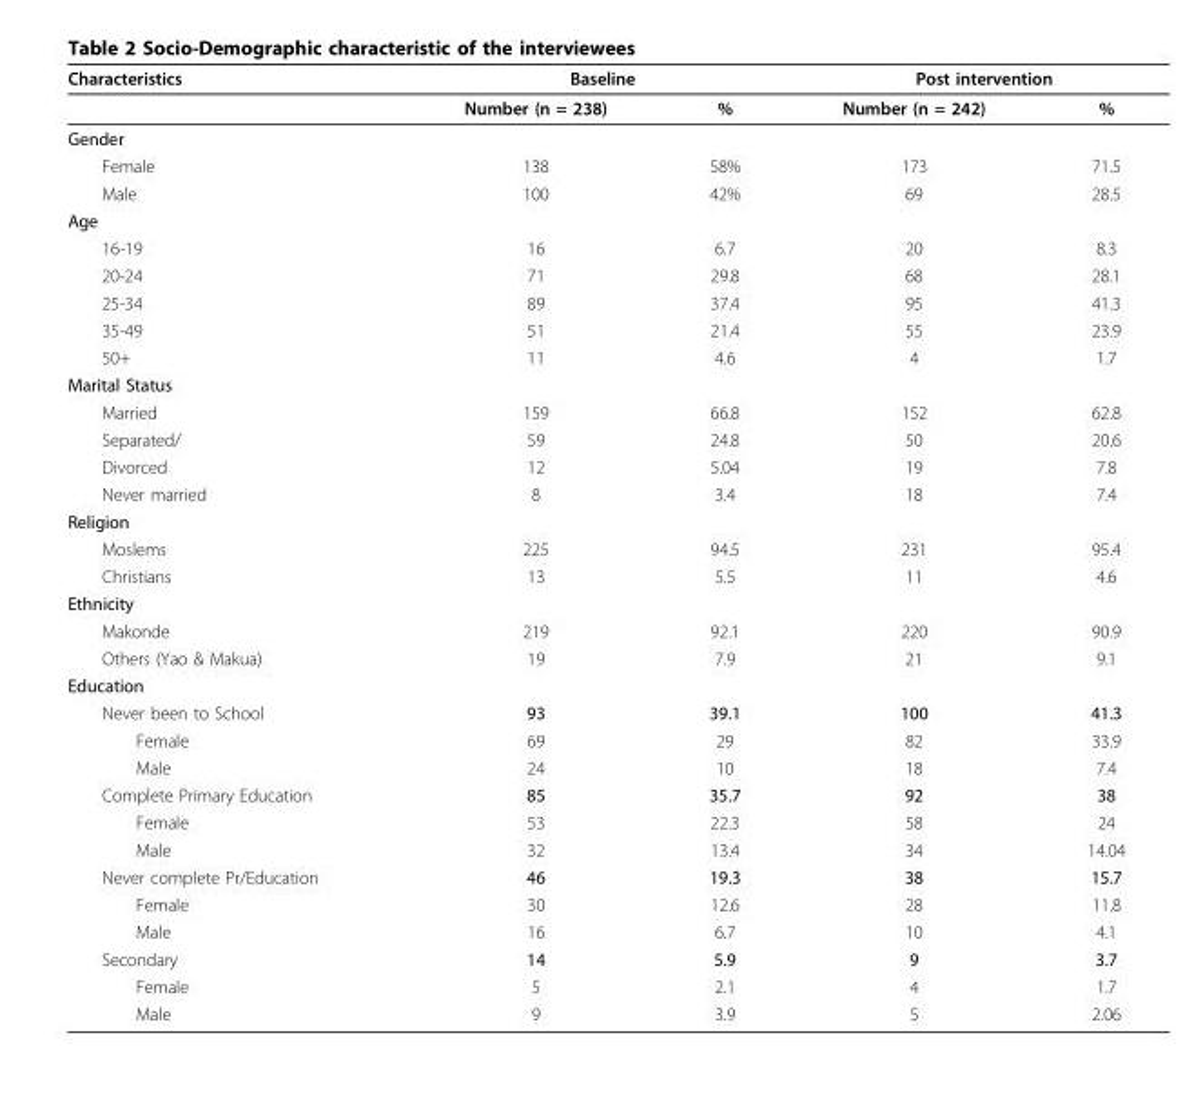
<table><thead><tr><td rowspan="2">Characteristics</td><td colspan="2">Baseline</td><td colspan="2">Post intervention</td></tr><tr><td>Number (n = 238)</td><td>%</td><td>Number (n = 242)</td><td>%</td></tr></thead><tbody><tr><td colspan="5">Gender</td></tr><tr><td>Female</td><td>138</td><td>58%</td><td>173</td><td>71.5</td></tr><tr><td>Male</td><td>100</td><td>42%</td><td>69</td><td>28.5</td></tr><tr><td colspan="5">Age</td></tr><tr><td>16-19</td><td>16</td><td>6.7</td><td>20</td><td>8.3</td></tr><tr><td>20-24</td><td>71</td><td>29.8</td><td>68</td><td>28.1</td></tr><tr><td>25-34</td><td>89</td><td>37.4</td><td>95</td><td>41.3</td></tr><tr><td>35-49</td><td>51</td><td>21.4</td><td>55</td><td>23.9</td></tr><tr><td>50+</td><td>11</td><td>4.6</td><td>4</td><td>1.7</td></tr><tr><td colspan="5">Marital Status</td></tr><tr><td>Married</td><td>159</td><td>66.8</td><td>152</td><td>62.8</td></tr><tr><td>Separated/</td><td>59</td><td>24.8</td><td>50</td><td>20.6</td></tr><tr><td>Divorced</td><td>12</td><td>5.04</td><td>19</td><td>7.8</td></tr><tr><td>Never married</td><td>8</td><td>3.4</td><td>18</td><td>7.4</td></tr><tr><td colspan="5">Religion</td></tr><tr><td>Moslems</td><td>225</td><td>94.5</td><td>231</td><td>95.4</td></tr><tr><td>Christians</td><td>13</td><td>5.5</td><td>11</td><td>4.6</td></tr><tr><td colspan="5">Ethnicity</td></tr><tr><td>Makonde</td><td>219</td><td>92.1</td><td>220</td><td>90.9</td></tr><tr><td>Others (Yao &amp; Makua)</td><td>19</td><td>7.9</td><td>21</td><td>9.1</td></tr><tr><td colspan="5">Education</td></tr><tr><td>Never been to School</td><td>93</td><td>39.1</td><td>100</td><td>41.3</td></tr><tr><td>Female</td><td>69</td><td>29</td><td>82</td><td>33.9</td></tr><tr><td>Male</td><td>24</td><td>10</td><td>18</td><td>7.4</td></tr><tr><td>Complete Primary Education</td><td>85</td><td>35.7</td><td>92</td><td>38</td></tr><tr><td>Female</td><td>53</td><td>22.3</td><td>58</td><td>24</td></tr><tr><td>Male</td><td>32</td><td>13.4</td><td>34</td><td>14.04</td></tr><tr><td>Never complete Pr/Education</td><td>46</td><td>19.3</td><td>38</td><td>15.7</td></tr><tr><td>Female</td><td>30</td><td>12.6</td><td>28</td><td>11.8</td></tr><tr><td>Male</td><td>16</td><td>6.7</td><td>10</td><td>4.1</td></tr><tr><td>Secondary</td><td>14</td><td>5.9</td><td>9</td><td>3.7</td></tr><tr><td>Female</td><td>5</td><td>2.1</td><td>4</td><td>1.7</td></tr><tr><td>Male</td><td>9</td><td>3.9</td><td>5</td><td>2.06</td></tr></tbody></table>